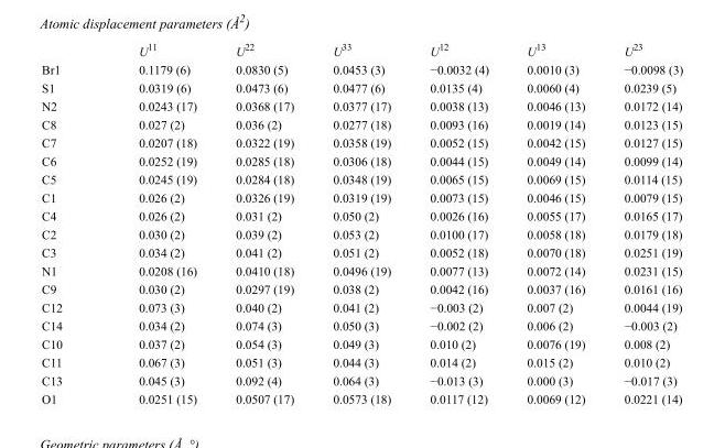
<table><thead><tr><td></td><td>U<sup>11</sup></td><td>U<sup>22</sup></td><td>U<sup>33</sup></td><td>U<sup>12</sup></td><td>U<sup>13</sup></td><td>U<sup>23</sup></td></tr></thead><tbody><tr><td>Br1</td><td>0.1179 (6)</td><td>0.0830 (5)</td><td>0.0453 (3)</td><td>−0.0032 (4)</td><td>0.0010 (3)</td><td>−0.0098 (3)</td></tr><tr><td>S1</td><td>0.0319 (6)</td><td>0.0473 (6)</td><td>0.0477 (6)</td><td>0.0135 (4)</td><td>0.0060 (4)</td><td>0.0239 (5)</td></tr><tr><td>N2</td><td>0.0243 (17)</td><td>0.0368 (17)</td><td>0.0377 (17)</td><td>0.0038 (13)</td><td>0.0046 (13)</td><td>0.0172 (14)</td></tr><tr><td>C8</td><td>0.027 (2)</td><td>0.036 (2)</td><td>0.0277 (18)</td><td>0.0093 (16)</td><td>0.0019 (14)</td><td>0.0123 (15)</td></tr><tr><td>C7</td><td>0.0207 (18)</td><td>0.0322 (19)</td><td>0.0358 (19)</td><td>0.0052 (15)</td><td>0.0042 (15)</td><td>0.0127 (15)</td></tr><tr><td>C6</td><td>0.0252 (19)</td><td>0.0285 (18)</td><td>0.0306 (18)</td><td>0.0044 (15)</td><td>0.0049 (14)</td><td>0.0099 (14)</td></tr><tr><td>C5</td><td>0.0245 (19)</td><td>0.0284 (18)</td><td>0.0348 (19)</td><td>0.0065 (15)</td><td>0.0069 (15)</td><td>0.0114 (15)</td></tr><tr><td>C1</td><td>0.026 (2)</td><td>0.0326 (19)</td><td>0.0319 (19)</td><td>0.0073 (15)</td><td>0.0046 (15)</td><td>0.0079 (15)</td></tr><tr><td>C4</td><td>0.026 (2)</td><td>0.031 (2)</td><td>0.050 (2)</td><td>0.0026 (16)</td><td>0.0055 (17)</td><td>0.0165 (17)</td></tr><tr><td>C2</td><td>0.030 (2)</td><td>0.039 (2)</td><td>0.053 (2)</td><td>0.0100 (17)</td><td>0.0058 (18)</td><td>0.0179 (18)</td></tr><tr><td>C3</td><td>0.034 (2)</td><td>0.041 (2)</td><td>0.051 (2)</td><td>0.0052 (18)</td><td>0.0070 (18)</td><td>0.0251 (19)</td></tr><tr><td>N1</td><td>0.0208 (16)</td><td>0.0410 (18)</td><td>0.0496 (19)</td><td>0.0077 (13)</td><td>0.0072 (14)</td><td>0.0231 (15)</td></tr><tr><td>C9</td><td>0.030 (2)</td><td>0.0297 (19)</td><td>0.038 (2)</td><td>0.0042 (16)</td><td>0.0037 (16)</td><td>0.0161 (16)</td></tr><tr><td>C12</td><td>0.073 (3)</td><td>0.040 (2)</td><td>0.041 (2)</td><td>−0.003 (2)</td><td>0.007 (2)</td><td>0.0044 (19)</td></tr><tr><td>C14</td><td>0.034 (2)</td><td>0.074 (3)</td><td>0.050 (3)</td><td>−0.002 (2)</td><td>0.006 (2)</td><td>−0.003 (2)</td></tr><tr><td>C10</td><td>0.037 (2)</td><td>0.054 (3)</td><td>0.049 (3)</td><td>0.010 (2)</td><td>0.0076 (19)</td><td>0.008 (2)</td></tr><tr><td>C11</td><td>0.067 (3)</td><td>0.051 (3)</td><td>0.044 (3)</td><td>0.014 (2)</td><td>0.015 (2)</td><td>0.010 (2)</td></tr><tr><td>C13</td><td>0.045 (3)</td><td>0.092 (4)</td><td>0.064 (3)</td><td>−0.013 (3)</td><td>0.000 (3)</td><td>−0.017 (3)</td></tr><tr><td>O1</td><td>0.0251 (15)</td><td>0.0507 (17)</td><td>0.0573 (18)</td><td>0.0117 (12)</td><td>0.0069 (12)</td><td>0.0221 (14)</td></tr></tbody></table>